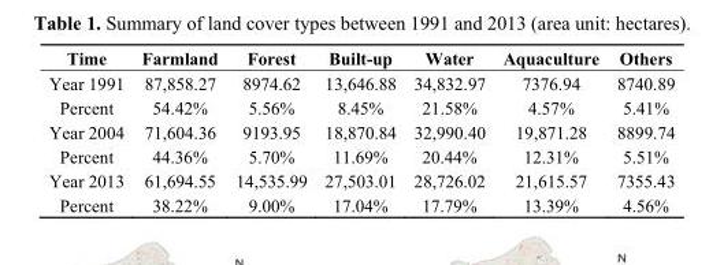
<table><thead><tr><td>Time</td><td>Farmland</td><td>Forest</td><td>Built-up</td><td>Water</td><td>Aquaculture</td><td>Others</td></tr></thead><tbody><tr><td>Year 1991</td><td>87,858.27</td><td>8974.62</td><td>13,646.88</td><td>34,832.97</td><td>7376.94</td><td>8740.89</td></tr><tr><td>Percent</td><td>54.42%</td><td>5.56%</td><td>8.45%</td><td>21.58%</td><td>4.57%</td><td>5.41%</td></tr><tr><td>Year 2004</td><td>71,604.36</td><td>9193.95</td><td>18,870.84</td><td>32,990.40</td><td>19,871.28</td><td>8899.74</td></tr><tr><td>Percent</td><td>44.36%</td><td>5.70%</td><td>11.69%</td><td>20.44%</td><td>12.31%</td><td>5.51%</td></tr><tr><td>Year 2013</td><td>61,694.55</td><td>14,535.99</td><td>27,503.01</td><td>28,726.02</td><td>21,615.57</td><td>7355.43</td></tr><tr><td>Percent</td><td>38.22%</td><td>9.00%</td><td>17.04%</td><td>17.79%</td><td>13.39%</td><td>4.56%</td></tr></tbody></table>